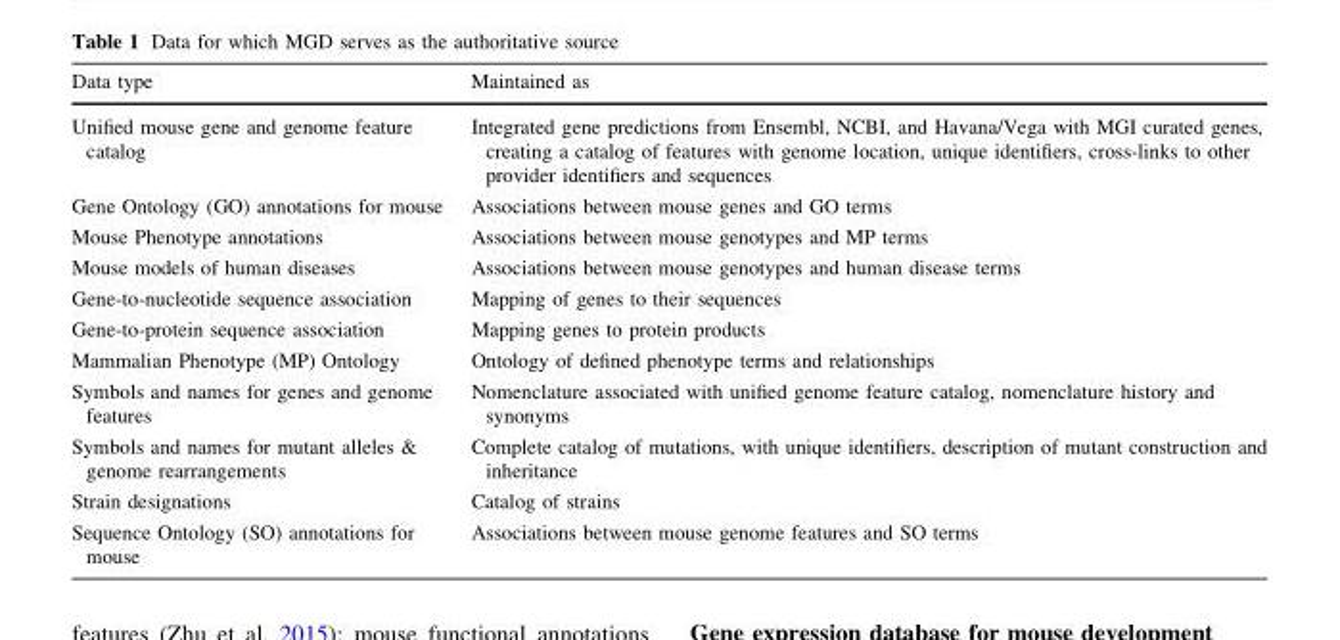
<table><thead><tr><td>Data type</td><td>Maintained as</td></tr></thead><tbody><tr><td>Unified mouse gene and genome feature catalog</td><td>Integrated gene predictions from Ensembl, NCBI, and Havana/Vega with MGI curated genes, creating a catalog of features with genome location, unique identifiers, cross-links to other provider identifiers and sequences</td></tr><tr><td>Gene Ontology (GO) annotations for mouse</td><td>Associations between mouse genes and GO terms</td></tr><tr><td>Mouse Phenotype annotations</td><td>Associations between mouse genotypes and MP terms</td></tr><tr><td>Mouse models of human diseases</td><td>Associations between mouse genotypes and human disease terms</td></tr><tr><td>Gene-to-nucleotide sequence association</td><td>Mapping of genes to their sequences</td></tr><tr><td>Gene-to-protein sequence association</td><td>Mapping genes to protein products</td></tr><tr><td>Mammalian Phenotype (MP) Ontology</td><td>Ontology of defined phenotype terms and relationships</td></tr><tr><td>Symbols and names for genes and genome features</td><td>Nomenclature associated with unified genome feature catalog, nomenclature history and synonyms</td></tr><tr><td>Symbols and names for mutant alleles &amp; genome rearrangements</td><td>Complete catalog of mutations, with unique identifiers, description of mutant construction and inheritance</td></tr><tr><td>Strain designations</td><td>Catalog of strains</td></tr><tr><td>Sequence Ontology (SO) annotations for mouse</td><td>Associations between mouse genome features and SO terms</td></tr></tbody></table>